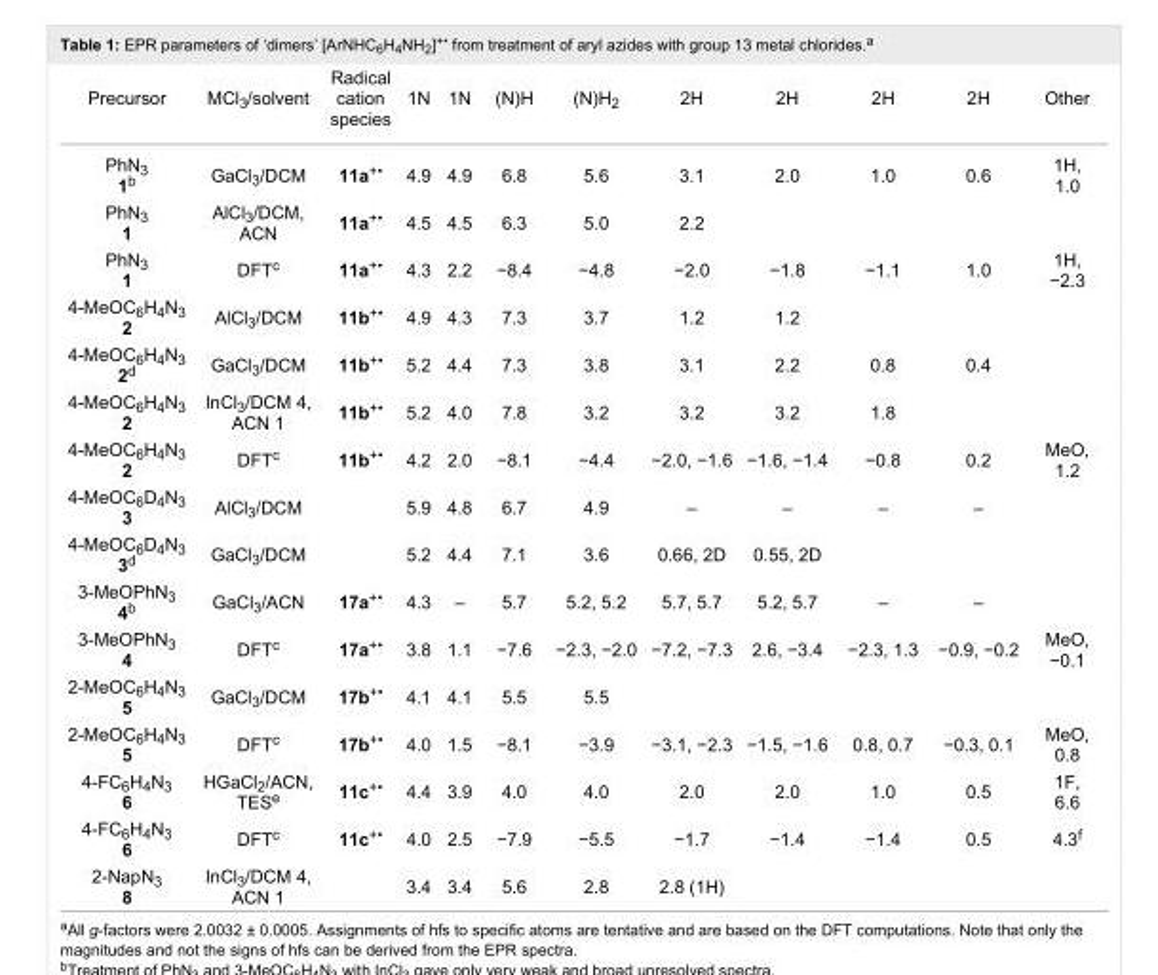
<table><tbody><tr><td>Precursor</td><td>MCl<sub>3</sub>/solvent</td><td>Radical cation species</td><td>1N</td><td>1N</td><td>(N)H</td><td>(N)H<sub>2</sub></td><td>2H</td><td>2H</td><td>2H</td><td>2H</td><td>Other</td></tr><tr><td>PhN<sub>3</sub> 1<sup>b</sup></td><td>GaCl<sub>3</sub>/DCM</td><td>11a<sup>+•</sup></td><td>4.9</td><td>4.9</td><td>6.8</td><td>5.6</td><td>3.1</td><td>2.0</td><td>1.0</td><td>0.6</td><td>1H, 1.0</td></tr><tr><td>PhN<sub>3</sub> 1</td><td>AlCl<sub>3</sub>/DCM, ACN</td><td>11a<sup>+•</sup></td><td>4.5</td><td>4.5</td><td>6.3</td><td>5.0</td><td>2.2</td><td></td><td></td><td></td><td></td></tr><tr><td>PhN<sub>3</sub> 1</td><td>DFT<sup>c</sup></td><td>11a<sup>+•</sup></td><td>4.3</td><td>2.2</td><td>−8.4</td><td>−4.8</td><td>−2.0</td><td>−1.8</td><td>−1.1</td><td>1.0</td><td>1H, −2.3</td></tr><tr><td>4-MeOC<sub>6</sub>H<sub>4</sub>N<sub>3</sub> 2</td><td>AlCl<sub>3</sub>/DCM</td><td>11b<sup>+•</sup></td><td>4.9</td><td>4.3</td><td>7.3</td><td>3.7</td><td>1.2</td><td>1.2</td><td></td><td></td><td></td></tr><tr><td>4-MeOC<sub>6</sub>H<sub>4</sub>N<sub>3</sub> 2<sup>d</sup></td><td>GaCl<sub>3</sub>/DCM</td><td>11b<sup>+•</sup></td><td>5.2</td><td>4.4</td><td>7.3</td><td>3.8</td><td>3.1</td><td>2.2</td><td>0.8</td><td>0.4</td><td></td></tr><tr><td>4-MeOC<sub>6</sub>H<sub>4</sub>N<sub>3</sub> 2</td><td>InCl<sub>3</sub>/DCM 4, ACN 1</td><td>11b<sup>+•</sup></td><td>5.2</td><td>4.0</td><td>7.8</td><td>3.2</td><td>3.2</td><td>3.2</td><td>1.8</td><td></td><td></td></tr><tr><td>4-MeOC<sub>6</sub>H<sub>4</sub>N<sub>3</sub> 2</td><td>DFT<sup>c</sup></td><td>11b<sup>+•</sup></td><td>4.2</td><td>2.0</td><td>−8.1</td><td>−4.4</td><td>−2.0, −1.6</td><td>−1.6, −1.4</td><td>−0.8</td><td>0.2</td><td>MeO, 1.2</td></tr><tr><td>4-MeOC<sub>6</sub>D<sub>4</sub>N<sub>3</sub> 3</td><td>AlCl<sub>3</sub>/DCM</td><td></td><td>5.9</td><td>4.8</td><td>6.7</td><td>4.9</td><td>–</td><td>–</td><td>–</td><td>–</td><td></td></tr><tr><td>4-MeOC<sub>6</sub>D<sub>4</sub>N<sub>3</sub> 3<sup>d</sup></td><td>GaCl<sub>3</sub>/DCM</td><td></td><td>5.2</td><td>4.4</td><td>7.1</td><td>3.6</td><td>0.66, 2D</td><td>0.55, 2D</td><td></td><td></td><td></td></tr><tr><td>3-MeOPhN<sub>3</sub> 4<sup>b</sup></td><td>GaCl<sub>3</sub>/ACN</td><td>17a<sup>+•</sup></td><td>4.3</td><td>–</td><td>5.7</td><td>5.2, 5.2</td><td>5.7, 5.7</td><td>5.2, 5.7</td><td>–</td><td>–</td><td></td></tr><tr><td>3-MeOPhN<sub>3</sub> 4</td><td>DFT<sup>c</sup></td><td>17a<sup>+•</sup></td><td>3.8</td><td>1.1</td><td>−7.6</td><td>−2.3, −2.0</td><td>−7.2, −7.3</td><td>2.6, −3.4</td><td>−2.3, 1.3</td><td>−0.9, −0.2</td><td>MeO, −0.1</td></tr><tr><td>2-MeOC<sub>6</sub>H<sub>4</sub>N<sub>3</sub> 5</td><td>GaCl<sub>3</sub>/DCM</td><td>17b<sup>+•</sup></td><td>4.1</td><td>4.1</td><td>5.5</td><td>5.5</td><td></td><td></td><td></td><td></td><td></td></tr><tr><td>2-MeOC<sub>6</sub>H<sub>4</sub>N<sub>3</sub> 5</td><td>DFT<sup>c</sup></td><td>17b<sup>+•</sup></td><td>4.0</td><td>1.5</td><td>−8.1</td><td>−3.9</td><td>−3.1, −2.3</td><td>−1.5, −1.6</td><td>0.8, 0.7</td><td>−0.3, 0.1</td><td>MeO, 0.8</td></tr><tr><td>4-FC<sub>6</sub>H<sub>4</sub>N<sub>3</sub> 6</td><td>HGaCl<sub>2</sub>/ACN, TES<sup>e</sup></td><td>11c<sup>+•</sup></td><td>4.4</td><td>3.9</td><td>4.0</td><td>4.0</td><td>2.0</td><td>2.0</td><td>1.0</td><td>0.5</td><td>1F, 6.6</td></tr><tr><td>4-FC<sub>6</sub>H<sub>4</sub>N<sub>3</sub> 6</td><td>DFT<sup>c</sup></td><td>11c<sup>+•</sup></td><td>4.0</td><td>2.5</td><td>−7.9</td><td>−5.5</td><td>−1.7</td><td>−1.4</td><td>−1.4</td><td>0.5</td><td>4.3<sup>f</sup></td></tr><tr><td>2-NapN<sub>3</sub> 8</td><td>InCl<sub>3</sub>/DCM 4, ACN 1</td><td></td><td>3.4</td><td>3.4</td><td>5.6</td><td>2.8</td><td>2.8 (1H)</td><td></td><td></td><td></td><td></td></tr></tbody></table>